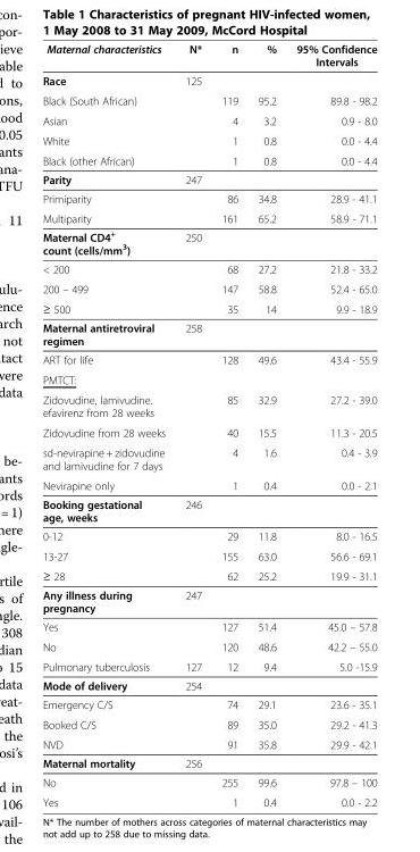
<table><thead><tr><td>Maternal characteristics</td><td>N*</td><td>n</td><td>%</td><td>95% Confidence Intervals</td></tr></thead><tbody><tr><td>Race</td><td>125</td><td></td><td></td><td></td></tr><tr><td>Black (South African)</td><td></td><td>119</td><td>95.2</td><td>89.8 - 98.2</td></tr><tr><td>Asian</td><td></td><td>4</td><td>3.2</td><td>0.9 - 8.0</td></tr><tr><td>White</td><td></td><td>1</td><td>0.8</td><td>0.0 - 4.4</td></tr><tr><td>Black (other African)</td><td></td><td>1</td><td>0.8</td><td>0.0 - 4.4</td></tr><tr><td>Parity</td><td>247</td><td></td><td></td><td></td></tr><tr><td>Primiparity</td><td></td><td>86</td><td>34.8</td><td>28.9 - 41.1</td></tr><tr><td>Multiparity</td><td></td><td>161</td><td>65.2</td><td>58.9 - 71.1</td></tr><tr><td>Maternal CD4<sup>+</sup> count (cells/mm<sup>3</sup>)</td><td>250</td><td></td><td></td><td></td></tr><tr><td>&lt; 200</td><td></td><td>68</td><td>27.2</td><td>21.8 - 33.2</td></tr><tr><td>200 – 499</td><td></td><td>147</td><td>58.8</td><td>52.4 - 65.0</td></tr><tr><td>≥ 500</td><td></td><td>35</td><td>14</td><td>9.9 - 18.9</td></tr><tr><td>Maternal antiretroviral regimen</td><td>258</td><td></td><td></td><td></td></tr><tr><td>ART for life</td><td></td><td>128</td><td>49.6</td><td>43.4 - 55.9</td></tr><tr><td colspan="5">PMTCT:</td></tr><tr><td>Zidovudine, lamivudine. efavirenz from 28 weeks</td><td></td><td>85</td><td>32.9</td><td>27.2 - 39.0</td></tr><tr><td>Zidovudine from 28 weeks</td><td></td><td>40</td><td>15.5</td><td>11.3 - 20.5</td></tr><tr><td>sd-nevirapine + zidovudine and lamivudine for 7 days</td><td></td><td>4</td><td>1.6</td><td>0.4 - 3.9</td></tr><tr><td>Nevirapine only</td><td></td><td>1</td><td>0.4</td><td>0.0 - 2.1</td></tr><tr><td>Booking gestational age, weeks</td><td>246</td><td></td><td></td><td></td></tr><tr><td>0-12</td><td></td><td>29</td><td>11.8</td><td>8.0 - 16.5</td></tr><tr><td>13-27</td><td></td><td>155</td><td>63.0</td><td>56.6 - 69.1</td></tr><tr><td>≥ 28</td><td></td><td>62</td><td>25.2</td><td>19.9 - 31.1</td></tr><tr><td>Any illness during pregnancy</td><td>247</td><td></td><td></td><td></td></tr><tr><td>Yes</td><td></td><td>127</td><td>51.4</td><td>45.0 – 57.8</td></tr><tr><td>No</td><td></td><td>120</td><td>48.6</td><td>42.2 – 55.0</td></tr><tr><td>Pulmonary tuberculosis</td><td>127</td><td>12</td><td>9.4</td><td>5.0 -15.9</td></tr><tr><td>Mode of delivery</td><td>254</td><td></td><td></td><td></td></tr><tr><td>Emergency C/S</td><td></td><td>74</td><td>29.1</td><td>23.6 - 35.1</td></tr><tr><td>Booked C/S</td><td></td><td>89</td><td>35.0</td><td>29.2 - 41.3</td></tr><tr><td>NVD</td><td></td><td>91</td><td>35.8</td><td>29.9 - 42.1</td></tr><tr><td>Maternal mortality</td><td>256</td><td></td><td></td><td></td></tr><tr><td>No</td><td></td><td>255</td><td>99.6</td><td>97.8 – 100</td></tr><tr><td>Yes</td><td></td><td>1</td><td>0.4</td><td>0.0 - 2.2</td></tr></tbody></table>